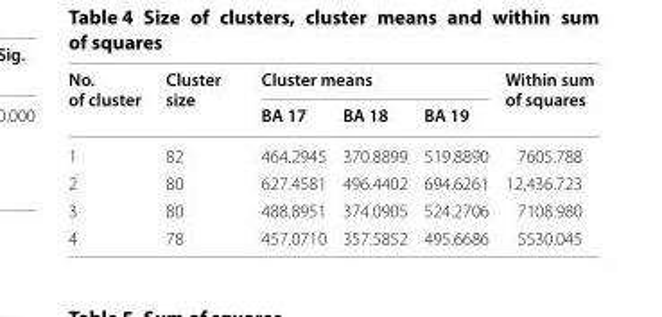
<table><thead><tr><td rowspan="2">No. of cluster</td><td rowspan="2">Cluster size</td><td colspan="3">Cluster means</td><td rowspan="2">Within sum of squares</td></tr><tr><td>BA 17</td><td>BA 18</td><td>BA 19</td></tr></thead><tbody><tr><td>1</td><td>82</td><td>464.2945</td><td>370.8899</td><td>519.8890</td><td>7605.788</td></tr><tr><td>2</td><td>80</td><td>627.4581</td><td>496.4402</td><td>694.6261</td><td>12,436.723</td></tr><tr><td>3</td><td>80</td><td>488.8951</td><td>374.0905</td><td>524.2706</td><td>7108.980</td></tr><tr><td>4</td><td>78</td><td>457.0710</td><td>357.5852</td><td>495.6686</td><td>5530.045</td></tr></tbody></table>